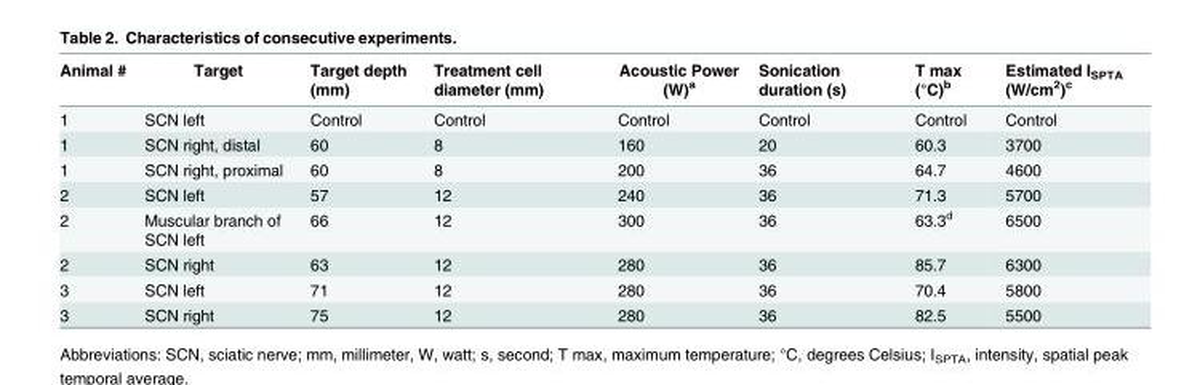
<table><thead><tr><td>Animal #</td><td>Target</td><td>Target depth (mm)</td><td>Treatment cell diameter (mm)</td><td>Acoustic Power (W)<sup>a</sup></td><td>Sonication duration (s)</td><td>T max (°C)<sup>b</sup></td><td>Estimated I<sub>SPTA</sub> (W/cm<sup>2</sup>)<sup>c</sup></td></tr></thead><tbody><tr><td>1</td><td>SCN left</td><td>Control</td><td>Control</td><td>Control</td><td>Control</td><td>Control</td><td>Control</td></tr><tr><td>1</td><td>SCN right, distal</td><td>60</td><td>8</td><td>160</td><td>20</td><td>60.3</td><td>3700</td></tr><tr><td>1</td><td>SCN right, proximal</td><td>60</td><td>8</td><td>200</td><td>36</td><td>64.7</td><td>4600</td></tr><tr><td>2</td><td>SCN left</td><td>57</td><td>12</td><td>240</td><td>36</td><td>71.3</td><td>5700</td></tr><tr><td>2</td><td>Muscular branch of SCN left</td><td>66</td><td>12</td><td>300</td><td>36</td><td>63.3<sup>d</sup></td><td>6500</td></tr><tr><td>2</td><td>SCN right</td><td>63</td><td>12</td><td>280</td><td>36</td><td>85.7</td><td>6300</td></tr><tr><td>3</td><td>SCN left</td><td>71</td><td>12</td><td>280</td><td>36</td><td>70.4</td><td>5800</td></tr><tr><td>3</td><td>SCN right</td><td>75</td><td>12</td><td>280</td><td>36</td><td>82.5</td><td>5500</td></tr></tbody></table>